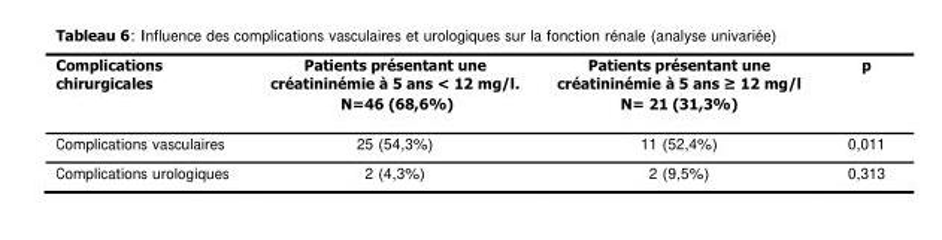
<table><thead><tr><td rowspan="3">Complications chirurgicales Complications vasculaires Complications urologiques</td><td rowspan="3">Patients présentant une créatininémie à 5 ans &lt; 12 mg/l. N=46 (68,6%) 25 (54,3%) 2 (4,3%)</td><td rowspan="3">Patients présentant une créatininémie à 5 ans ≥ 12 mg/l N= 21 (31,3%) 11 (52,4%) 2 (9,5%)</td><td rowspan="3">p 0,011 0,313</td></tr><tr></tr><tr></tr></thead><tbody></tbody></table>